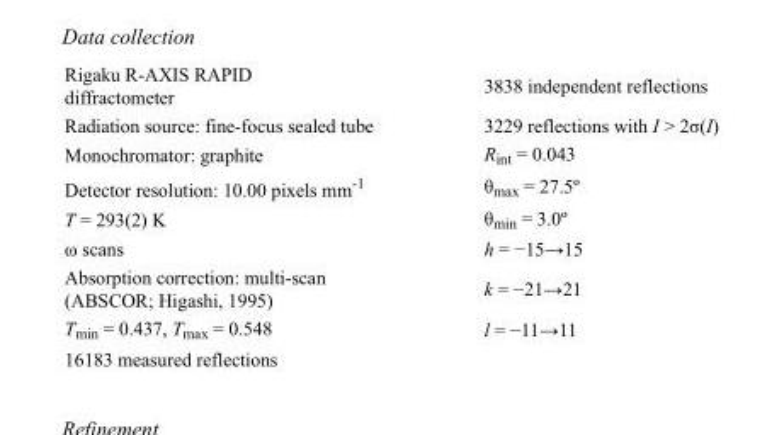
<table><tbody><tr><td>Rigaku R-AXIS RAPID diffractometer</td><td>3838 independent reflections</td></tr><tr><td>Radiation source: fine-focus sealed tube</td><td>3229 reflections with I &gt; 2σ(I)</td></tr><tr><td>Monochromator: graphite</td><td>R<sub>int</sub> = 0.043</td></tr><tr><td>Detector resolution: 10.00 pixels mm<sup>-1</sup></td><td>θ<sub>max</sub> = 27.5º</td></tr><tr><td>T = 293(2) K</td><td>θ<sub>min</sub> = 3.0º</td></tr><tr><td>ω scans</td><td>h = −15→15</td></tr><tr><td>Absorption correction: multi-scan (ABSCOR; Higashi, 1995)</td><td>k = −21→21</td></tr><tr><td>T<sub>min</sub> = 0.437, T<sub>max</sub> = 0.548</td><td>l = −11→11</td></tr><tr><td>16183 measured reflections</td><td></td></tr></tbody></table>